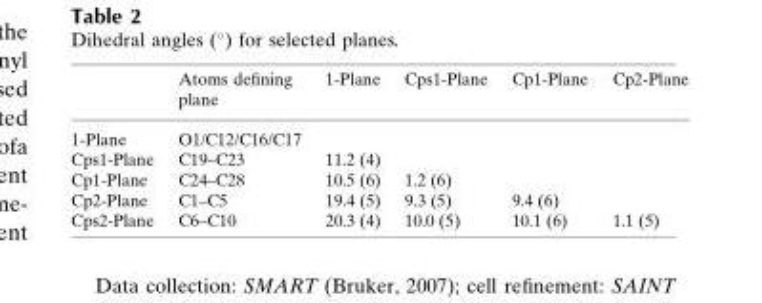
<table><thead><tr><td></td><td>Atoms defining plane</td><td>1-Plane</td><td>Cps1-Plane</td><td>Cp1-Plane</td><td>Cp2-Plane</td></tr></thead><tbody><tr><td>1-Plane</td><td>O1/C12/C16/C17</td><td></td><td></td><td></td><td></td></tr><tr><td>Cps1-Plane</td><td>C19–C23</td><td>11.2 (4)</td><td></td><td></td><td></td></tr><tr><td>Cp1-Plane</td><td>C24–C28</td><td>10.5 (6)</td><td>1.2 (6)</td><td></td><td></td></tr><tr><td>Cp2-Plane</td><td>C1–C5</td><td>19.4 (5)</td><td>9.3 (5)</td><td>9.4 (6)</td><td></td></tr><tr><td>Cps2-Plane</td><td>C6–C10</td><td>20.3 (4)</td><td>10.0 (5)</td><td>10.1 (6)</td><td>1.1 (5)</td></tr></tbody></table>